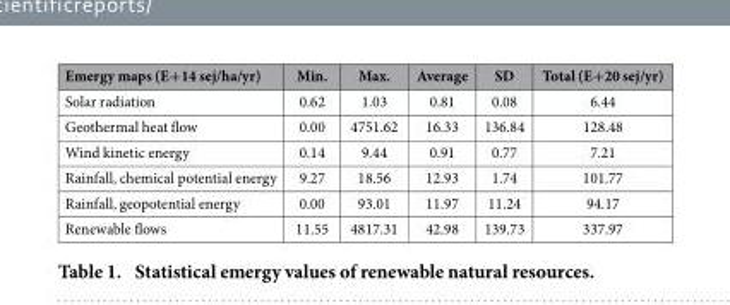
<table><thead><tr><td>Emergy maps (E+14 sej/ha/yr)</td><td>Min.</td><td>Max.</td><td>Average</td><td>SD</td><td>Total (E+20 sej/yr)</td></tr></thead><tbody><tr><td>Solar radiation</td><td>0.62</td><td>1.03</td><td>0.81</td><td>0.08</td><td>6.44</td></tr><tr><td>Geothermal heat flow</td><td>0.00</td><td>4751.62</td><td>16.33</td><td>136.84</td><td>128.48</td></tr><tr><td>Wind kinetic energy</td><td>0.14</td><td>9.44</td><td>0.91</td><td>0.77</td><td>7.21</td></tr><tr><td>Rainfall, chemical potential energy</td><td>9.27</td><td>18.56</td><td>12.93</td><td>1.74</td><td>101.77</td></tr><tr><td>Rainfall, geopotential energy</td><td>0.00</td><td>93.01</td><td>11.97</td><td>11.24</td><td>94.17</td></tr><tr><td>Renewable flows</td><td>11.55</td><td>4817.31</td><td>42.98</td><td>139.73</td><td>337.97</td></tr></tbody></table>